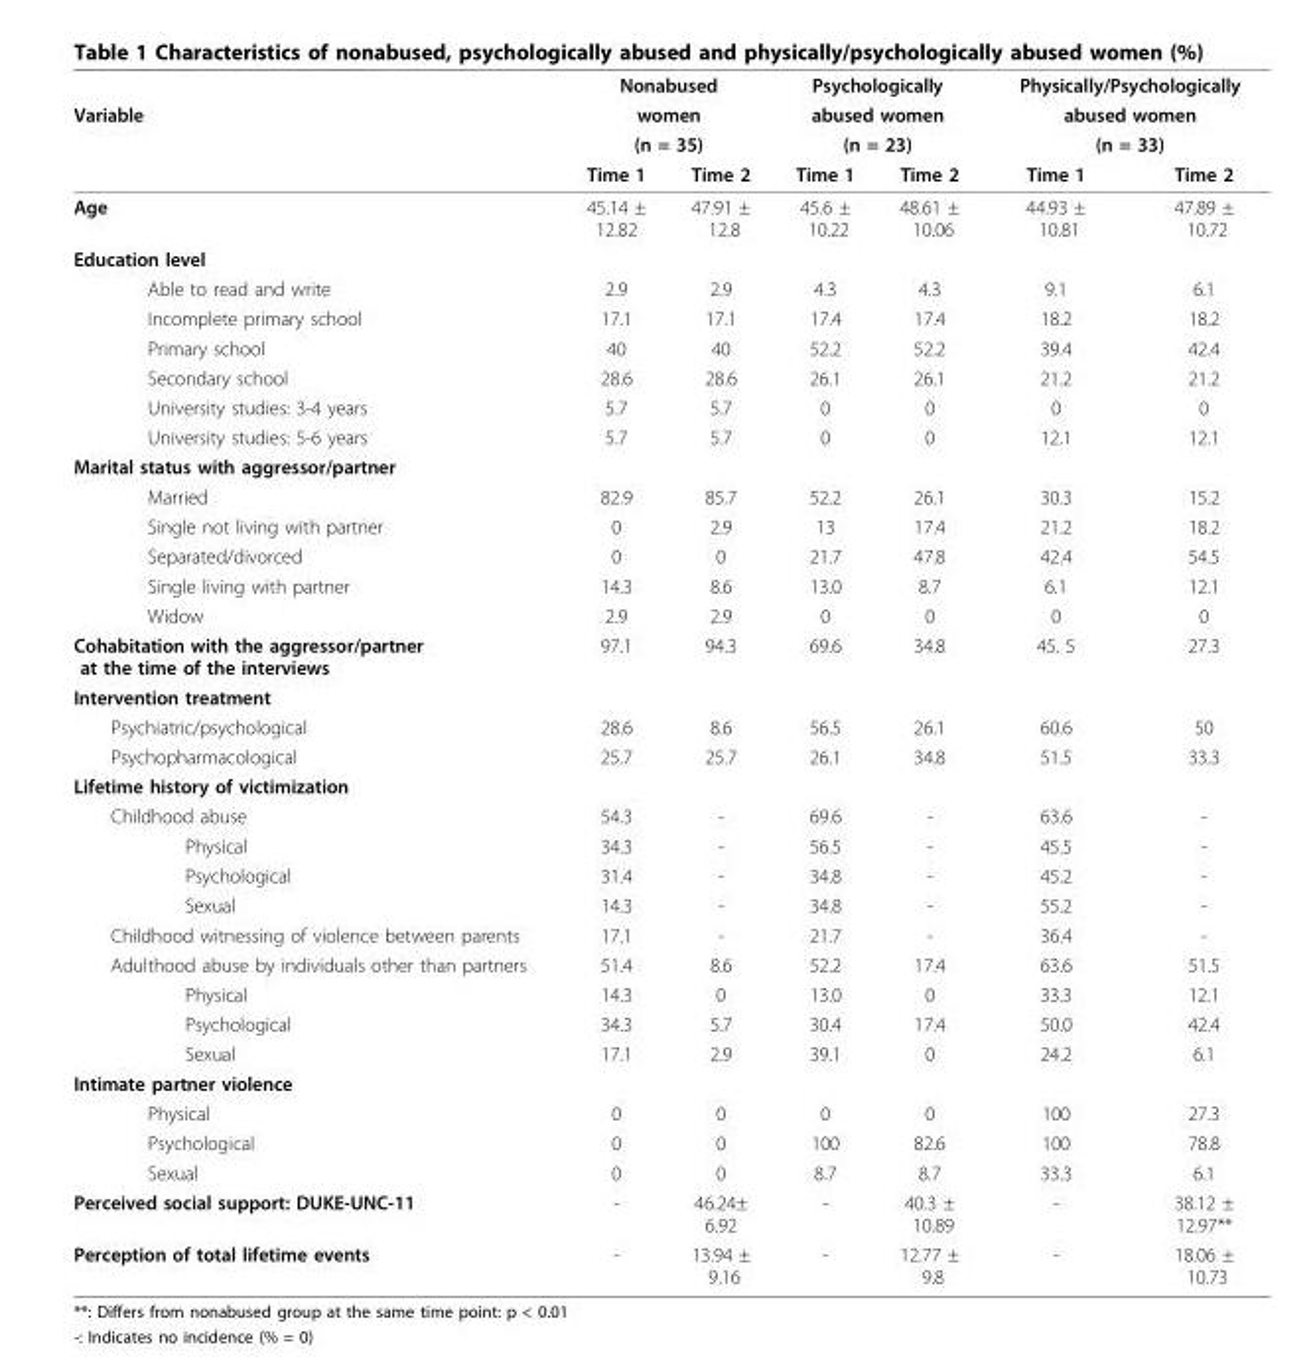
<table><thead><tr><td rowspan="4">Variable</td><td rowspan="3" colspan="2">Nonabused women (n = 35)</td><td rowspan="3" colspan="2">Psychologically abused women (n = 23)</td><td rowspan="3" colspan="2">Physically/Psychologically abused women (n = 33)</td></tr><tr></tr><tr></tr><tr><td>Time 1</td><td>Time 2</td><td>Time 1</td><td>Time 2</td><td>Time 1</td><td>Time 2</td></tr></thead><tbody><tr><td>Age</td><td>45.14 ± 12.82</td><td>47.91 ± 12.8</td><td>45.6 ± 10.22</td><td>48.61 ± 10.06</td><td>44.93 ± 10.81</td><td>47.89 ± 10.72</td></tr><tr><td colspan="7">Education level</td></tr><tr><td>Able to read and write</td><td>2.9</td><td>2.9</td><td>4.3</td><td>4.3</td><td>9.1</td><td>6.1</td></tr><tr><td>Incomplete primary school</td><td>17.1</td><td>17.1</td><td>17.4</td><td>17.4</td><td>18.2</td><td>18.2</td></tr><tr><td>Primary school</td><td>40</td><td>40</td><td>52.2</td><td>52.2</td><td>39.4</td><td>42.4</td></tr><tr><td>Secondary school</td><td>28.6</td><td>28.6</td><td>26.1</td><td>26.1</td><td>21.2</td><td>21.2</td></tr><tr><td>University studies: 3-4 years</td><td>5.7</td><td>5.7</td><td>0</td><td>0</td><td>0</td><td>0</td></tr><tr><td>University studies: 5-6 years</td><td>5.7</td><td>5.7</td><td>0</td><td>0</td><td>12.1</td><td>12.1</td></tr><tr><td colspan="7">Marital status with aggressor/partner</td></tr><tr><td>Married</td><td>82.9</td><td>85.7</td><td>52.2</td><td>26.1</td><td>30.3</td><td>15.2</td></tr><tr><td>Single not living with partner</td><td>0</td><td>2.9</td><td>13</td><td>17.4</td><td>21.2</td><td>18.2</td></tr><tr><td>Separated/divorced</td><td>0</td><td>0</td><td>21.7</td><td>47.8</td><td>42.4</td><td>54.5</td></tr><tr><td>Single living with partner</td><td>14.3</td><td>8.6</td><td>13.0</td><td>8.7</td><td>6.1</td><td>12.1</td></tr><tr><td>Widow</td><td>2.9</td><td>2.9</td><td>0</td><td>0</td><td>0</td><td>0</td></tr><tr><td>Cohabitation with the aggressor/partner at the time of the interviews</td><td>97.1</td><td>94.3</td><td>69.6</td><td>34.8</td><td>45. 5</td><td>27.3</td></tr><tr><td colspan="7">Intervention treatment</td></tr><tr><td>Psychiatric/psychological</td><td>28.6</td><td>8.6</td><td>56.5</td><td>26.1</td><td>60.6</td><td>50</td></tr><tr><td>Psychopharmacological</td><td>25.7</td><td>25.7</td><td>26.1</td><td>34.8</td><td>51.5</td><td>33.3</td></tr><tr><td colspan="7">Lifetime history of victimization</td></tr><tr><td>Childhood abuse</td><td>54.3</td><td>-</td><td>69.6</td><td>-</td><td>63.6</td><td>-</td></tr><tr><td>Physical</td><td>34.3</td><td>-</td><td>56.5</td><td>-</td><td>45.5</td><td>-</td></tr><tr><td>Psychological</td><td>31.4</td><td>-</td><td>34.8</td><td>-</td><td>45.2</td><td>-</td></tr><tr><td>Sexual</td><td>14.3</td><td>-</td><td>34.8</td><td>-</td><td>55.2</td><td>-</td></tr><tr><td>Childhood witnessing of violence between parents</td><td>17.1</td><td>-</td><td>21.7</td><td>-</td><td>36.4</td><td>-</td></tr><tr><td>Adulthood abuse by individuals other than partners</td><td>51.4</td><td>8.6</td><td>52.2</td><td>17.4</td><td>63.6</td><td>51.5</td></tr><tr><td>Physical</td><td>14.3</td><td>0</td><td>13.0</td><td>0</td><td>33.3</td><td>12.1</td></tr><tr><td>Psychological</td><td>34.3</td><td>5.7</td><td>30.4</td><td>17.4</td><td>50.0</td><td>42.4</td></tr><tr><td>Sexual</td><td>17.1</td><td>2.9</td><td>39.1</td><td>0</td><td>24.2</td><td>6.1</td></tr><tr><td colspan="7">Intimate partner violence</td></tr><tr><td>Physical</td><td>0</td><td>0</td><td>0</td><td>0</td><td>100</td><td>27.3</td></tr><tr><td>Psychological</td><td>0</td><td>0</td><td>100</td><td>82.6</td><td>100</td><td>78.8</td></tr><tr><td>Sexual</td><td>0</td><td>0</td><td>8.7</td><td>8.7</td><td>33.3</td><td>6.1</td></tr><tr><td>Perceived social support: DUKE-UNC-11</td><td>-</td><td>46.24± 6.92</td><td>-</td><td>40.3 ± 10.89</td><td>-</td><td>38.12 ± 12.97**</td></tr><tr><td>Perception of total lifetime events</td><td>-</td><td>13.94 ± 9.16</td><td>-</td><td>12.77 ± 9.8</td><td>-</td><td>18.06 ± 10.73</td></tr></tbody></table>